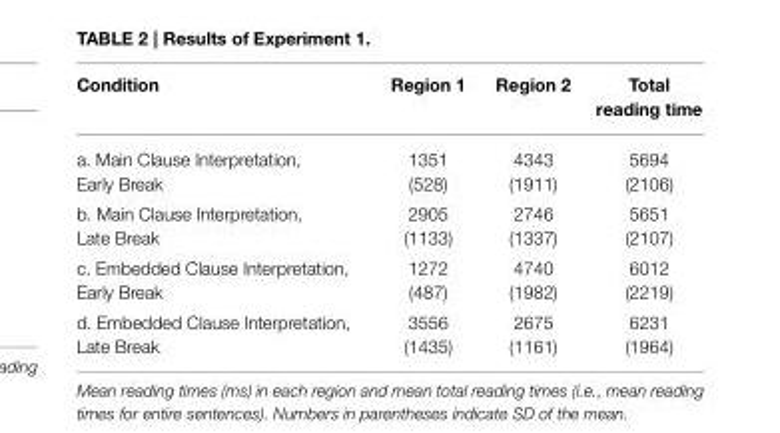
<table><thead><tr><td>Condition</td><td>Region 1</td><td>Region 2</td><td>Total reading time</td></tr></thead><tbody><tr><td>a. Main Clause Interpretation, Early Break</td><td>1351 (528)</td><td>4343 (1911)</td><td>5694 (2106)</td></tr><tr><td>b. Main Clause Interpretation, Late Break</td><td>2905 (1133)</td><td>2746 (1337)</td><td>5651 (2107)</td></tr><tr><td>c. Embedded Clause Interpretation, Early Break</td><td>1272 (487)</td><td>4740 (1982)</td><td>6012 (2219)</td></tr><tr><td>d. Embedded Clause Interpretation, Late Break</td><td>3556 (1435)</td><td>2675 (1161)</td><td>6231 (1964)</td></tr></tbody></table>